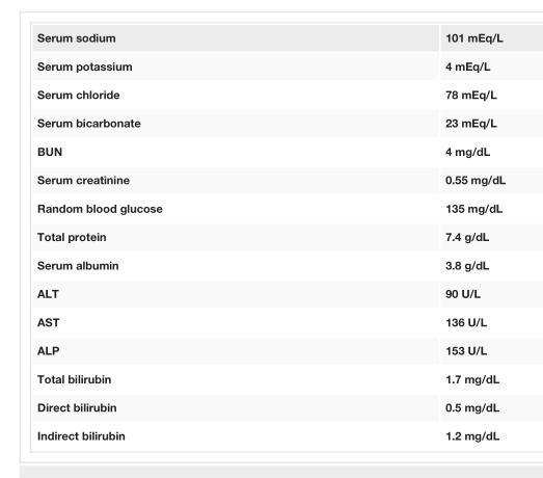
<table><tbody><tr><td>Serum sodium</td><td>101 mEq/L</td></tr><tr><td>Serum potassium</td><td>4 mEq/L</td></tr><tr><td>Serum chloride</td><td>78 mEq/L</td></tr><tr><td>Serum bicarbonate</td><td>23 mEq/L</td></tr><tr><td>BUN</td><td>4 mg/dL</td></tr><tr><td>Serum creatinine</td><td>0.55 mg/dL</td></tr><tr><td>Random blood glucose</td><td>135 mg/dL</td></tr><tr><td>Total protein</td><td>7.4 g/dL</td></tr><tr><td>Serum albumin</td><td>3.8 g/dL</td></tr><tr><td>ALT</td><td>90 U/L</td></tr><tr><td>AST</td><td>136 U/L</td></tr><tr><td>ALP</td><td>153 U/L</td></tr><tr><td>Total bilirubin</td><td>1.7 mg/dL</td></tr><tr><td>Direct bilirubin</td><td>0.5 mg/dL</td></tr><tr><td>Indirect bilirubin</td><td>1.2 mg/dL</td></tr></tbody></table>